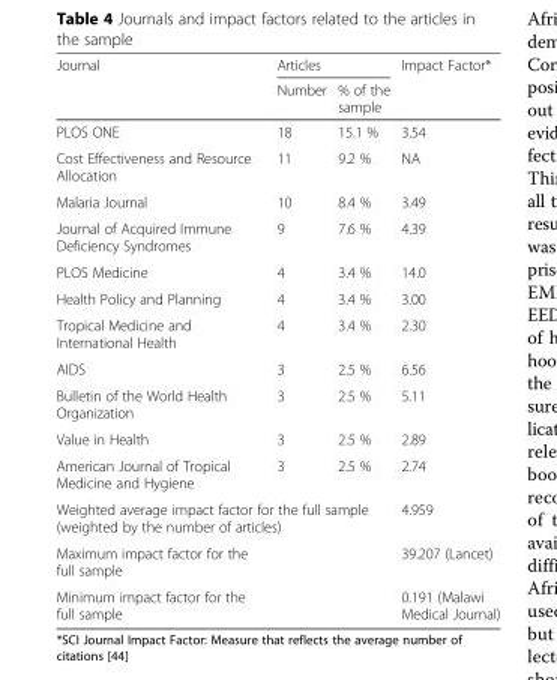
<table><thead><tr><td rowspan="2">Journal</td><td colspan="2">Articles</td><td rowspan="2">Impact Factor*</td></tr><tr><td>Number</td><td>% of the sample</td></tr></thead><tbody><tr><td>PLOS ONE</td><td>18</td><td>15.1 %</td><td>3.54</td></tr><tr><td>Cost Effectiveness and Resource Allocation</td><td>11</td><td>9.2 %</td><td>NA</td></tr><tr><td>Malaria Journal</td><td>10</td><td>8.4 %</td><td>3.49</td></tr><tr><td>Journal of Acquired Immune Deficiency Syndromes</td><td>9</td><td>7.6 %</td><td>4.39</td></tr><tr><td>PLOS Medicine</td><td>4</td><td>3.4 %</td><td>14.0</td></tr><tr><td>Health Policy and Planning</td><td>4</td><td>3.4 %</td><td>3.00</td></tr><tr><td>Tropical Medicine and International Health</td><td>4</td><td>3.4 %</td><td>2.30</td></tr><tr><td>AIDS</td><td>3</td><td>2.5 %</td><td>6.56</td></tr><tr><td>Bulletin of the World Health Organization</td><td>3</td><td>2.5 %</td><td>5.11</td></tr><tr><td>Value in Health</td><td>3</td><td>2.5 %</td><td>2.89</td></tr><tr><td>American Journal of Tropical Medicine and Hygiene</td><td>3</td><td>2.5 %</td><td>2.74</td></tr><tr><td colspan="3">Weighted average impact factor for the full sample (weighted by the number of articles)</td><td>4.959</td></tr><tr><td>Maximum impact factor for the full sample</td><td colspan="2"></td><td>39.207 (Lancet)</td></tr><tr><td>Minimum impact factor for the full sample</td><td colspan="2"></td><td>0.191 (Malawi Medical Journal)</td></tr></tbody></table>